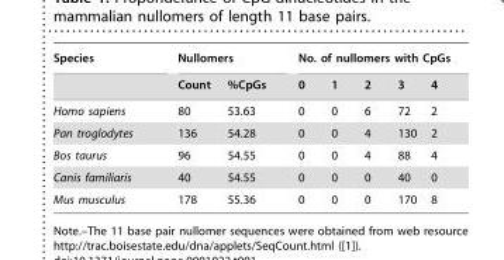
<table><thead><tr><td rowspan="2">Species</td><td colspan="2">Nullomers</td><td colspan="5">No. of nullomers with CpGs</td></tr><tr><td>Count</td><td>%CpGs</td><td>0</td><td>1</td><td>2</td><td>3</td><td>4</td></tr></thead><tbody><tr><td>Homo sapiens</td><td>80</td><td>53.63</td><td>0</td><td>0</td><td>6</td><td>72</td><td>2</td></tr><tr><td>Pan troglodytes</td><td>136</td><td>54.28</td><td>0</td><td>0</td><td>4</td><td>130</td><td>2</td></tr><tr><td>Bos taurus</td><td>96</td><td>54.55</td><td>0</td><td>0</td><td>4</td><td>88</td><td>4</td></tr><tr><td>Canis familiaris</td><td>40</td><td>54.55</td><td>0</td><td>0</td><td>0</td><td>40</td><td>0</td></tr><tr><td>Mus musculus</td><td>178</td><td>55.36</td><td>0</td><td>0</td><td>0</td><td>170</td><td>8</td></tr></tbody></table>